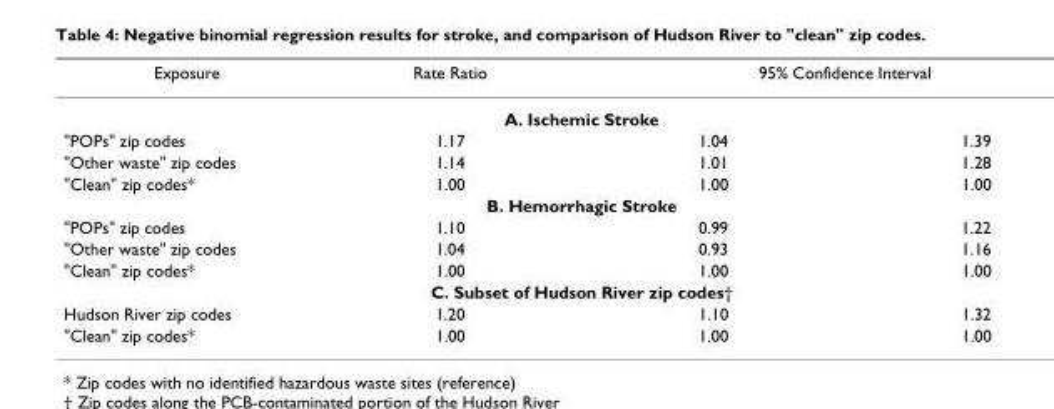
<table><thead><tr><td>Exposure</td><td>Rate Ratio</td><td colspan="2">95% Confidence Interval</td></tr><tr><td colspan="4">A. Ischemic Stroke</td></tr><tr><td>&quot;POPs&quot; zip codes</td><td>1.17</td><td>1.04</td><td>1.39</td></tr></thead><tbody><tr><td>&quot;Other waste&quot; zip codes</td><td>1.14</td><td>1.01</td><td>1.28</td></tr><tr><td>&quot;Clean&quot; zip codes*</td><td>1.00</td><td>1.00</td><td>1.00</td></tr><tr><td colspan="4">B. Hemorrhagic Stroke</td></tr><tr><td>&quot;POPs&quot; zip codes</td><td>1.10</td><td>0.99</td><td>1.22</td></tr><tr><td>&quot;Other waste&quot; zip codes</td><td>1.04</td><td>0.93</td><td>1.16</td></tr><tr><td>&quot;Clean&quot; zip codes*</td><td>1.00</td><td>1.00</td><td>1.00</td></tr><tr><td colspan="4">C. Subset of Hudson River zip codes†</td></tr><tr><td>Hudson River zip codes</td><td>1.20</td><td>1.10</td><td>1.32</td></tr><tr><td>&quot;Clean&quot; zip codes*</td><td>1.00</td><td>1.00</td><td>1.00</td></tr></tbody></table>